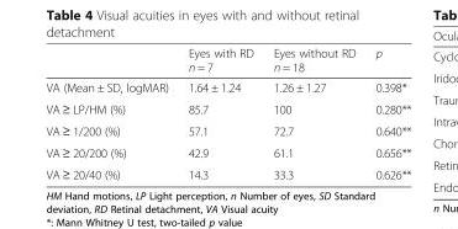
<table><thead><tr><td></td><td>Eyes with RD n = 7</td><td>Eyes without RD n = 18</td><td>p</td></tr></thead><tbody><tr><td>VA (Mean ± SD, logMAR)</td><td>1.64 ± 1.24</td><td>1.26 ± 1.27</td><td>0.398*</td></tr><tr><td>VA ≥ LP/HM (%)</td><td>85.7</td><td>100</td><td>0.280**</td></tr><tr><td>VA ≥ 1/200 (%)</td><td>57.1</td><td>72.7</td><td>0.640**</td></tr><tr><td>VA ≥ 20/200 (%)</td><td>42.9</td><td>61.1</td><td>0.656**</td></tr><tr><td>VA ≥ 20/40 (%)</td><td>14.3</td><td>33.3</td><td>0.626**</td></tr></tbody></table>